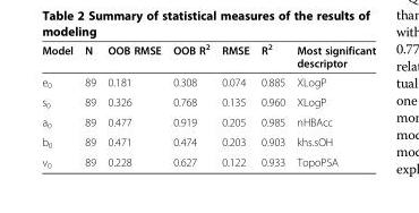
<table><thead><tr><td>Model</td><td>N</td><td>OOB RMSE</td><td>OOB R<sup>2</sup></td><td>RMSE</td><td>R<sup>2</sup></td><td>Most significant descriptor</td></tr></thead><tbody><tr><td>e<sub>0</sub></td><td>89</td><td>0.181</td><td>0.308</td><td>0.074</td><td>0.885</td><td>XLogP</td></tr><tr><td>s<sub>0</sub></td><td>89</td><td>0.326</td><td>0.768</td><td>0.135</td><td>0.960</td><td>XLogP</td></tr><tr><td>a<sub>0</sub></td><td>89</td><td>0.477</td><td>0.919</td><td>0.205</td><td>0.985</td><td>nHBAcc</td></tr><tr><td>b<sub>0</sub></td><td>89</td><td>0.471</td><td>0.474</td><td>0.203</td><td>0.903</td><td>khs.sOH</td></tr><tr><td>v<sub>0</sub></td><td>89</td><td>0.228</td><td>0.627</td><td>0.122</td><td>0.933</td><td>TopoPSA</td></tr></tbody></table>